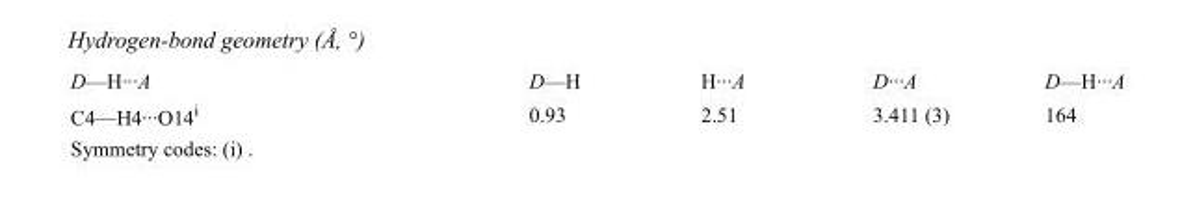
<table><tbody><tr><td>D—H···A</td><td>D—H</td><td>H···A</td><td>D···A</td><td>D—H···A</td></tr><tr><td>C4—H4···O14<sup>i</sup></td><td>0.93</td><td>2.51</td><td>3.411 (3)</td><td>164</td></tr></tbody></table>